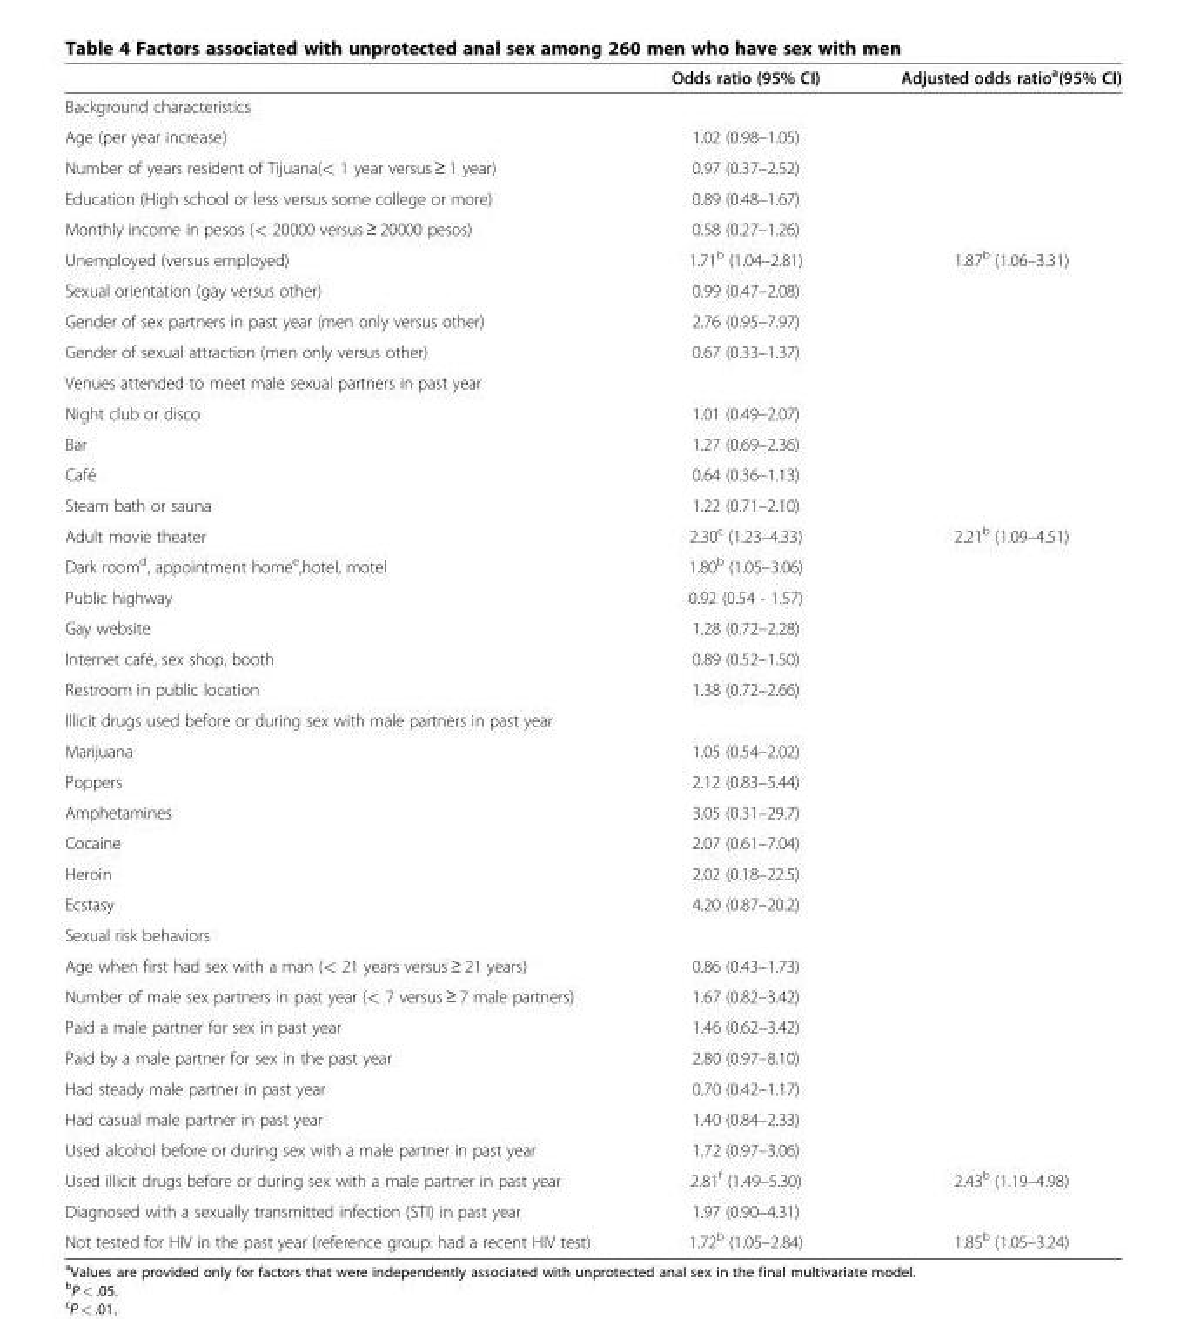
<table><thead><tr><td></td><td>Odds ratio (95% CI)</td><td>Adjusted odds ratio<sup>a</sup>(95% CI)</td></tr></thead><tbody><tr><td colspan="3">Background characteristics</td></tr><tr><td>Age (per year increase)</td><td>1.02 (0.98–1.05)</td><td></td></tr><tr><td>Number of years resident of Tijuana(&lt; 1 year versus ≥ 1 year)</td><td>0.97 (0.37–2.52)</td><td></td></tr><tr><td>Education (High school or less versus some college or more)</td><td>0.89 (0.48–1.67)</td><td></td></tr><tr><td>Monthly income in pesos (&lt; 20000 versus ≥ 20000 pesos)</td><td>0.58 (0.27–1.26)</td><td></td></tr><tr><td>Unemployed (versus employed)</td><td>1.71<sup>b</sup> (1.04–2.81)</td><td>1.87<sup>b</sup> (1.06–3.31)</td></tr><tr><td>Sexual orientation (gay versus other)</td><td>0.99 (0.47–2.08)</td><td></td></tr><tr><td>Gender of sex partners in past year (men only versus other)</td><td>2.76 (0.95–7.97)</td><td></td></tr><tr><td>Gender of sexual attraction (men only versus other)</td><td>0.67 (0.33–1.37)</td><td></td></tr><tr><td colspan="3">Venues attended to meet male sexual partners in past year</td></tr><tr><td>Night club or disco</td><td>1.01 (0.49–2.07)</td><td></td></tr><tr><td>Bar</td><td>1.27 (0.69–2.36)</td><td></td></tr><tr><td>Café</td><td>0.64 (0.36–1.13)</td><td></td></tr><tr><td>Steam bath or sauna</td><td>1.22 (0.71–2.10)</td><td></td></tr><tr><td>Adult movie theater</td><td>2.30<sup>c</sup> (1.23–4.33)</td><td>2.21<sup>b</sup> (1.09–4.51)</td></tr><tr><td>Dark room<sup>d</sup>, appointment home<sup>e</sup>,hotel, motel</td><td>1.80<sup>b</sup> (1.05–3.06)</td><td></td></tr><tr><td>Public highway</td><td>0.92 (0.54 - 1.57)</td><td></td></tr><tr><td>Gay website</td><td>1.28 (0.72–2.28)</td><td></td></tr><tr><td>Internet café, sex shop, booth</td><td>0.89 (0.52–1.50)</td><td></td></tr><tr><td>Restroom in public location</td><td>1.38 (0.72–2.66)</td><td></td></tr><tr><td colspan="3">Illicit drugs used before or during sex with male partners in past year</td></tr><tr><td>Marijuana</td><td>1.05 (0.54–2.02)</td><td></td></tr><tr><td>Poppers</td><td>2.12 (0.83–5.44)</td><td></td></tr><tr><td>Amphetamines</td><td>3.05 (0.31–29.7)</td><td></td></tr><tr><td>Cocaine</td><td>2.07 (0.61–7.04)</td><td></td></tr><tr><td>Heroin</td><td>2.02 (0.18–22.5)</td><td></td></tr><tr><td>Ecstasy</td><td>4.20 (0.87–20.2)</td><td></td></tr><tr><td colspan="3">Sexual risk behaviors</td></tr><tr><td>Age when first had sex with a man (&lt; 21 years versus ≥ 21 years)</td><td>0.86 (0.43–1.73)</td><td></td></tr><tr><td>Number of male sex partners in past year (&lt; 7 versus ≥ 7 male partners)</td><td>1.67 (0.82–3.42)</td><td></td></tr><tr><td>Paid a male partner for sex in past year</td><td>1.46 (0.62–3.42)</td><td></td></tr><tr><td>Paid by a male partner for sex in the past year</td><td>2.80 (0.97–8.10)</td><td></td></tr><tr><td>Had steady male partner in past year</td><td>0.70 (0.42–1.17)</td><td></td></tr><tr><td>Had casual male partner in past year</td><td>1.40 (0.84–2.33)</td><td></td></tr><tr><td>Used alcohol before or during sex with a male partner in past year</td><td>1.72 (0.97–3.06)</td><td></td></tr><tr><td>Used illicit drugs before or during sex with a male partner in past year</td><td>2.81<sup>f</sup> (1.49–5.30)</td><td>2.43<sup>b</sup> (1.19–4.98)</td></tr><tr><td>Diagnosed with a sexually transmitted infection (STI) in past year</td><td>1.97 (0.90–4.31)</td><td></td></tr><tr><td>Not tested for HIV in the past year (reference group: had a recent HIV test)</td><td>1.72<sup>b</sup> (1.05–2.84)</td><td>1.85<sup>b</sup> (1.05–3.24)</td></tr></tbody></table>